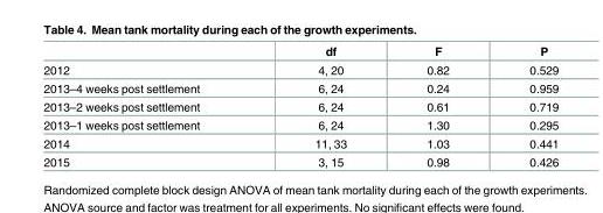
<table><thead><tr><td></td><td>df</td><td>F</td><td>P</td></tr></thead><tbody><tr><td>2012</td><td>4, 20</td><td>0.82</td><td>0.529</td></tr><tr><td>2013–4 weeks post settlement</td><td>6, 24</td><td>0.24</td><td>0.959</td></tr><tr><td>2013–2 weeks post settlement</td><td>6, 24</td><td>0.61</td><td>0.719</td></tr><tr><td>2013–1 weeks post settlement</td><td>6, 24</td><td>1.30</td><td>0.295</td></tr><tr><td>2014</td><td>11, 33</td><td>1.03</td><td>0.441</td></tr><tr><td>2015</td><td>3, 15</td><td>0.98</td><td>0.426</td></tr></tbody></table>